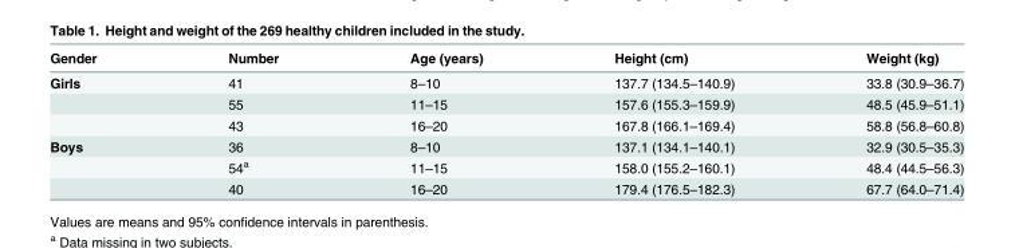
<table><thead><tr><td>Gender</td><td>Number</td><td>Age (years)</td><td>Height (cm)</td><td>Weight (kg)</td></tr></thead><tbody><tr><td rowspan="3">Girls</td><td>41</td><td>8–10</td><td>137.7 (134.5–140.9)</td><td>33.8 (30.9–36.7)</td></tr><tr><td>55</td><td>11–15</td><td>157.6 (155.3–159.9)</td><td>48.5 (45.9–51.1)</td></tr><tr><td>43</td><td>16–20</td><td>167.8 (166.1–169.4)</td><td>58.8 (56.8–60.8)</td></tr><tr><td rowspan="3">Boys</td><td>36</td><td>8–10</td><td>137.1 (134.1–140.1)</td><td>32.9 (30.5–35.3)</td></tr><tr><td>54<sup>a</sup></td><td>11–15</td><td>158.0 (155.2–160.1)</td><td>48.4 (44.5–56.3)</td></tr><tr><td>40</td><td>16–20</td><td>179.4 (176.5–182.3)</td><td>67.7 (64.0–71.4)</td></tr></tbody></table>